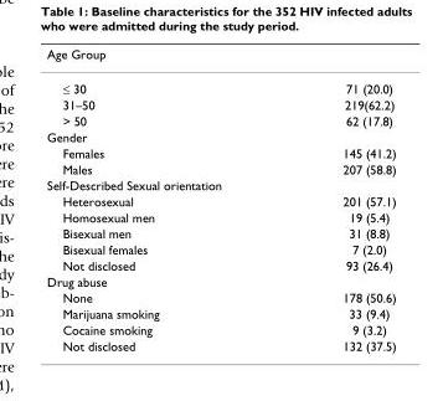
<table><thead><tr><td>Age Group</td><td></td></tr></thead><tbody><tr><td>≤ 30</td><td>71 (20.0)</td></tr><tr><td>31–50</td><td>219(62.2)</td></tr><tr><td>&gt; 50</td><td>62 (17.8)</td></tr><tr><td colspan="2">Gender</td></tr><tr><td>Females</td><td>145 (41.2)</td></tr><tr><td>Males</td><td>207 (58.8)</td></tr><tr><td colspan="2">Self-Described Sexual orientation</td></tr><tr><td>Heterosexual</td><td>201 (57.1)</td></tr><tr><td>Homosexual men</td><td>19 (5.4)</td></tr><tr><td>Bisexual men</td><td>31 (8.8)</td></tr><tr><td>Bisexual females</td><td>7 (2.0)</td></tr><tr><td>Not disclosed</td><td>93 (26.4)</td></tr><tr><td colspan="2">Drug abuse</td></tr><tr><td>None</td><td>178 (50.6)</td></tr><tr><td>Marijuana smoking</td><td>33 (9.4)</td></tr><tr><td>Cocaine smoking</td><td>9 (3.2)</td></tr><tr><td>Not disclosed</td><td>132 (37.5)</td></tr></tbody></table>